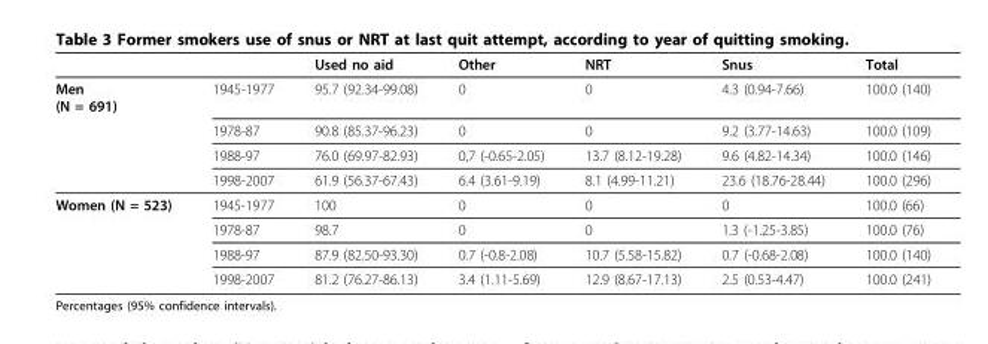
<table><thead><tr><td></td><td></td><td>Used no aid</td><td>Other</td><td>NRT</td><td>Snus</td><td>Total</td></tr></thead><tbody><tr><td rowspan="4">Men (N = 691)</td><td>1945-1977</td><td>95.7 (92.34-99.08)</td><td>0</td><td>0</td><td>4.3 (0.94-7.66)</td><td>100.0 (140)</td></tr><tr><td>1978-87</td><td>90.8 (85.37-96.23)</td><td>0</td><td>0</td><td>9.2 (3.77-14.63)</td><td>100.0 (109)</td></tr><tr><td>1988-97</td><td>76.0 (69.97-82.93)</td><td>0,7 (-0.65-2.05)</td><td>13.7 (8.12-19.28)</td><td>9.6 (4.82-14.34)</td><td>100.0 (146)</td></tr><tr><td>1998-2007</td><td>61.9 (56.37-67.43)</td><td>6.4 (3.61-9.19)</td><td>8.1 (4.99-11.21)</td><td>23.6 (18.76-28.44)</td><td>100.0 (296)</td></tr><tr><td rowspan="4">Women (N = 523)</td><td>1945-1977</td><td>100</td><td>0</td><td>0</td><td>0</td><td>100.0 (66)</td></tr><tr><td>1978-87</td><td>98.7</td><td>0</td><td>0</td><td>1.3 (-1.25-3.85)</td><td>100.0 (76)</td></tr><tr><td>1988-97</td><td>87.9 (82.50-93.30)</td><td>0.7 (-0.8-2.08)</td><td>10.7 (5.58-15.82)</td><td>0.7 (-0.68-2.08)</td><td>100.0 (140)</td></tr><tr><td>1998-2007</td><td>81.2 (76.27-86.13)</td><td>3.4 (1.11-5.69)</td><td>12.9 (8.67-17.13)</td><td>2.5 (0.53-4.47)</td><td>100.0 (241)</td></tr></tbody></table>